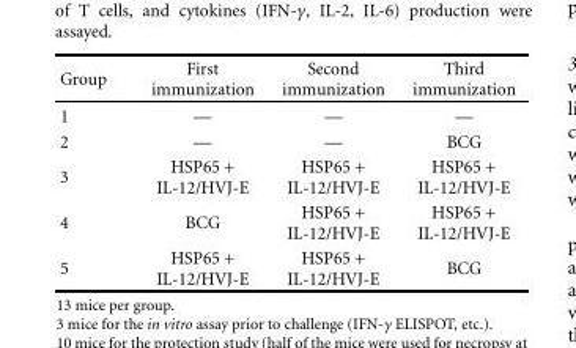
<table><thead><tr><td>Group</td><td>First immunization</td><td>Second immunization</td><td>Third immunization</td></tr></thead><tbody><tr><td>1</td><td>—</td><td>—</td><td>—</td></tr><tr><td>2</td><td>—</td><td>—</td><td>BCG</td></tr><tr><td>3</td><td>HSP65 + IL-12/HVJ-E</td><td>HSP65 + IL-12/HVJ-E</td><td>HSP65 + IL-12/HVJ-E</td></tr><tr><td>4</td><td>BCG</td><td>HSP65 + IL-12/HVJ-E</td><td>HSP65 + IL-12/HVJ-E</td></tr><tr><td>5</td><td>HSP65 + IL-12/HVJ-E</td><td>HSP65 + IL-12/HVJ-E</td><td>BCG</td></tr></tbody></table>